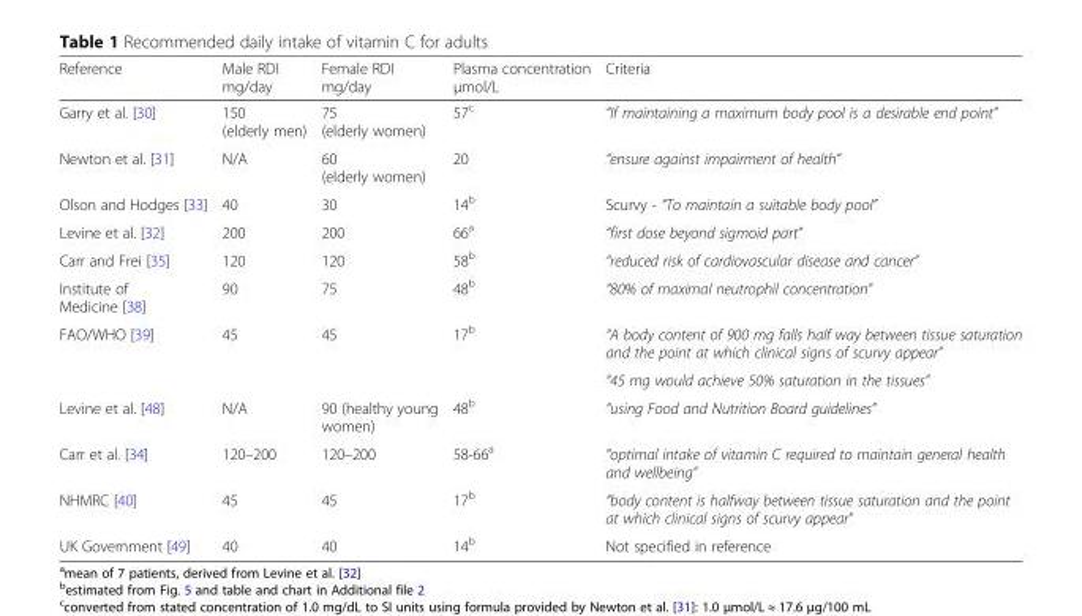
<table><thead><tr><td>Reference</td><td>Male RDI mg/day</td><td>Female RDI mg/day</td><td>Plasma concentration μmol/L</td><td>Criteria</td></tr></thead><tbody><tr><td>Garry et al. [30]</td><td>150 (elderly men)</td><td>75 (elderly women)</td><td>57<sup>c</sup></td><td>“If maintaining a maximum body pool is a desirable end point”</td></tr><tr><td>Newton et al. [31]</td><td>N/A</td><td>60 (elderly women)</td><td>20</td><td>“ensure against impairment of health”</td></tr><tr><td>Olson and Hodges [33]</td><td>40</td><td>30</td><td>14<sup>b</sup></td><td>Scurvy - “To maintain a suitable body pool”</td></tr><tr><td>Levine et al. [32]</td><td>200</td><td>200</td><td>66<sup>a</sup></td><td>“first dose beyond sigmoid part”</td></tr><tr><td>Carr and Frei [35]</td><td>120</td><td>120</td><td>58<sup>b</sup></td><td>“reduced risk of cardiovascular disease and cancer”</td></tr><tr><td>Institute of Medicine [38]</td><td>90</td><td>75</td><td>48<sup>b</sup></td><td>“80% of maximal neutrophil concentration”</td></tr><tr><td rowspan="2">FAO/WHO [39]</td><td rowspan="2">45</td><td rowspan="2">45</td><td rowspan="2">17<sup>b</sup></td><td>“A body content of 900 mg falls half way between tissue saturation and the point at which clinical signs of scurvy appear”</td></tr><tr><td>“45 mg would achieve 50% saturation in the tissues”</td></tr><tr><td>Levine et al. [48]</td><td>N/A</td><td>90 (healthy young women)</td><td>48<sup>b</sup></td><td>“using Food and Nutrition Board guidelines”</td></tr><tr><td>Carr et al. [34]</td><td>120–200</td><td>120–200</td><td>58-66<sup>a</sup></td><td>“optimal intake of vitamin C required to maintain general health and wellbeing”</td></tr><tr><td>NHMRC [40]</td><td>45</td><td>45</td><td>17<sup>b</sup></td><td>“body content is halfway between tissue saturation and the point at which clinical signs of scurvy appear”</td></tr><tr><td>UK Government [49]</td><td>40</td><td>40</td><td>14<sup>b</sup></td><td>Not specified in reference</td></tr></tbody></table>